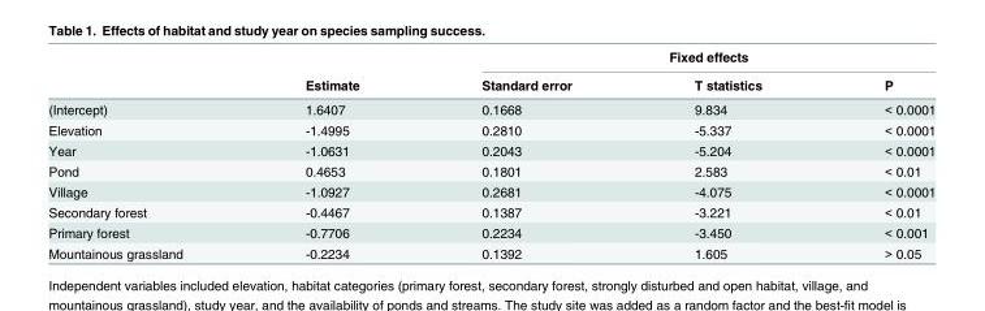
<table><thead><tr><td rowspan="2"></td><td rowspan="2">Estimate</td><td colspan="3">Fixed effects</td></tr><tr><td>Standard error</td><td>T statistics</td><td>P</td></tr></thead><tbody><tr><td>(Intercept)</td><td>1.6407</td><td>0.1668</td><td>9.834</td><td>&lt; 0.0001</td></tr><tr><td>Elevation</td><td>-1.4995</td><td>0.2810</td><td>-5.337</td><td>&lt; 0.0001</td></tr><tr><td>Year</td><td>-1.0631</td><td>0.2043</td><td>-5.204</td><td>&lt; 0.0001</td></tr><tr><td>Pond</td><td>0.4653</td><td>0.1801</td><td>2.583</td><td>&lt; 0.01</td></tr><tr><td>Village</td><td>-1.0927</td><td>0.2681</td><td>-4.075</td><td>&lt; 0.0001</td></tr><tr><td>Secondary forest</td><td>-0.4467</td><td>0.1387</td><td>-3.221</td><td>&lt; 0.01</td></tr><tr><td>Primary forest</td><td>-0.7706</td><td>0.2234</td><td>-3.450</td><td>&lt; 0.001</td></tr><tr><td>Mountainous grassland</td><td>-0.2234</td><td>0.1392</td><td>1.605</td><td>&gt; 0.05</td></tr></tbody></table>